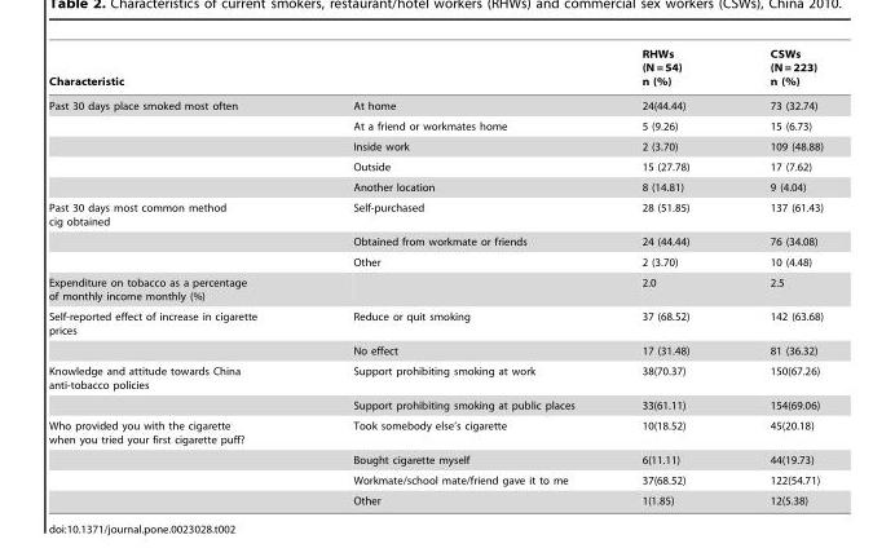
<table><thead><tr><td colspan="2">Characteristic</td><td rowspan="2">RHWs (N = 54) n (%) 24(44.44)</td><td rowspan="2">CSWs (N = 223) n (%) 73 (32.74)</td></tr><tr><td>Past 30 days place smoked most often</td><td>At home</td></tr></thead><tbody><tr><td></td><td>At a friend or workmates home</td><td>5 (9.26)</td><td>15 (6.73)</td></tr><tr><td></td><td>Inside work</td><td>2 (3.70)</td><td>109 (48.88)</td></tr><tr><td></td><td>Outside</td><td>15 (27.78)</td><td>17 (7.62)</td></tr><tr><td></td><td>Another location</td><td>8 (14.81)</td><td>9 (4.04)</td></tr><tr><td rowspan="3">Past 30 days most common method cig obtained</td><td>Self-purchased</td><td>28 (51.85)</td><td>137 (61.43)</td></tr><tr><td>Obtained from workmate or friends</td><td>24 (44.44)</td><td>76 (34.08)</td></tr><tr><td>Other</td><td>2 (3.70)</td><td>10 (4.48)</td></tr><tr><td>Expenditure on tobacco as a percentage of monthly income monthly (%)</td><td></td><td>2.0</td><td>2.5</td></tr><tr><td rowspan="2">Self-reported effect of increase in cigarette prices</td><td>Reduce or quit smoking</td><td>37 (68.52)</td><td>142 (63.68)</td></tr><tr><td>No effect</td><td>17 (31.48)</td><td>81 (36.32)</td></tr><tr><td rowspan="2">Knowledge and attitude towards China anti-tobacco policies</td><td>Support prohibiting smoking at work</td><td>38(70.37)</td><td>150(67.26)</td></tr><tr><td>Support prohibiting smoking at public places</td><td>33(61.11)</td><td>154(69.06)</td></tr><tr><td rowspan="4">Who provided you with the cigarette when you tried your first cigarette puff?</td><td>Took somebody else’s cigarette</td><td>10(18.52)</td><td>45(20.18)</td></tr><tr><td>Bought cigarette myself</td><td>6(11.11)</td><td>44(19.73)</td></tr><tr><td>Workmate/school mate/friend gave it to me</td><td>37(68.52)</td><td>122(54.71)</td></tr><tr><td>Other</td><td>1(1.85)</td><td>12(5.38)</td></tr></tbody></table>